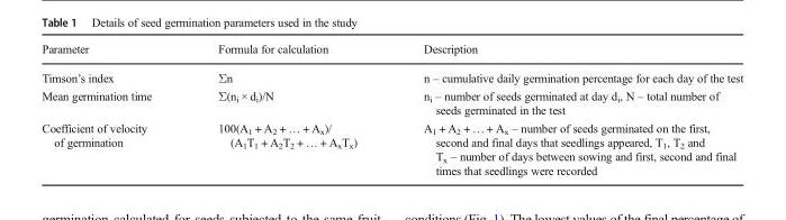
<table><thead><tr><td>Parameter</td><td>Formula for calculation</td><td>Description</td></tr></thead><tbody><tr><td>Timson’s index</td><td>Σn</td><td>n – cumulative daily germination percentage for each day of the test</td></tr><tr><td>Mean germination time</td><td>Σ(n<sub>i</sub> × d<sub>i</sub>)/N</td><td>n<sub>i</sub> – number of seeds germinated at day d<sub>i</sub>, N – total number of seeds germinated in the test</td></tr><tr><td>Coefficient of velocity of germination</td><td>100(A<sub>1</sub> + A<sub>2</sub> + … + A<sub>x</sub>)/ (A<sub>1</sub>T<sub>1</sub> + A<sub>2</sub>T<sub>2</sub> + … + A<sub>x</sub>T<sub>x</sub>)</td><td>A<sub>1</sub> + A<sub>2</sub> + … + A<sub>x</sub> – number of seeds germinated on the first, second and final days that seedlings appeared, T<sub>1</sub>, T<sub>2</sub> and T<sub>x</sub> – number of days between sowing and first, second and final times that seedlings were recorded</td></tr></tbody></table>